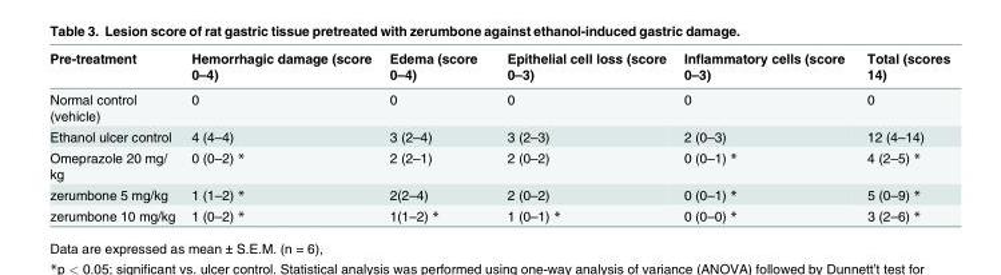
<table><thead><tr><td>Pre-treatment</td><td>Hemorrhagic damage (score 0–4)</td><td>Edema (score 0–4)</td><td>Epithelial cell loss (score 0–3)</td><td>Inflammatory cells (score 0–3)</td><td>Total (scores 14)</td></tr></thead><tbody><tr><td>Normal control (vehicle)</td><td>0</td><td>0</td><td>0</td><td>0</td><td>0</td></tr><tr><td>Ethanol ulcer control</td><td>4 (4–4)</td><td>3 (2–4)</td><td>3 (2–3)</td><td>2 (0–3)</td><td>12 (4–14)</td></tr><tr><td>Omeprazole 20 mg/ kg</td><td>0 (0–2) *</td><td>2 (2–1)</td><td>2 (0–2)</td><td>0 (0–1) *</td><td>4 (2–5) *</td></tr><tr><td>zerumbone 5 mg/kg</td><td>1 (1–2) *</td><td>2(2–4)</td><td>2 (0–2)</td><td>0 (0–1) *</td><td>5 (0–9) *</td></tr><tr><td>zerumbone 10 mg/kg</td><td>1 (0–2) *</td><td>1(1–2) *</td><td>1 (0–1) *</td><td>0 (0–0) *</td><td>3 (2–6) *</td></tr></tbody></table>